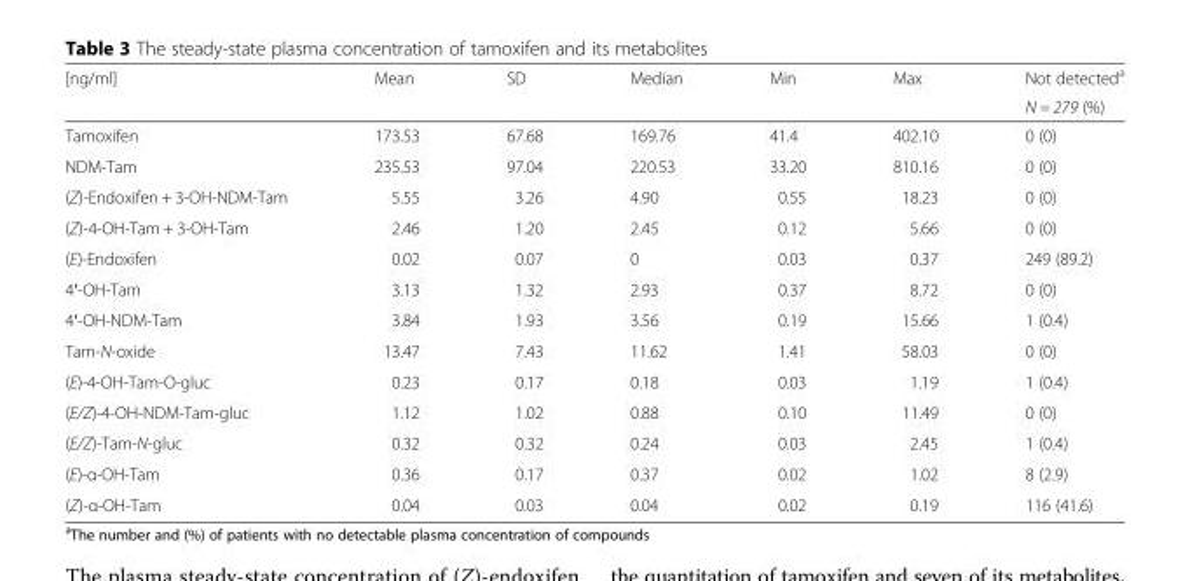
<table><thead><tr><td rowspan="2">[ng/ml]</td><td rowspan="2">Mean</td><td rowspan="2">SD</td><td rowspan="2">Median</td><td rowspan="2">Min</td><td rowspan="2">Max</td><td rowspan="2">Not detected<sup>a</sup> N = 279 (%)</td></tr><tr></tr></thead><tbody><tr><td>Tamoxifen</td><td>173.53</td><td>67.68</td><td>169.76</td><td>41.4</td><td>402.10</td><td>0 (0)</td></tr><tr><td>NDM-Tam</td><td>235.53</td><td>97.04</td><td>220.53</td><td>33.20</td><td>810.16</td><td>0 (0)</td></tr><tr><td>(Z)-Endoxifen + 3-OH-NDM-Tam</td><td>5.55</td><td>3.26</td><td>4.90</td><td>0.55</td><td>18.23</td><td>0 (0)</td></tr><tr><td>(Z)-4-OH-Tam + 3-OH-Tam</td><td>2.46</td><td>1.20</td><td>2.45</td><td>0.12</td><td>5.66</td><td>0 (0)</td></tr><tr><td>(E)-Endoxifen</td><td>0.02</td><td>0.07</td><td>0</td><td>0.03</td><td>0.37</td><td>249 (89.2)</td></tr><tr><td>4′-OH-Tam</td><td>3.13</td><td>1.32</td><td>2.93</td><td>0.37</td><td>8.72</td><td>0 (0)</td></tr><tr><td>4′-OH-NDM-Tam</td><td>3.84</td><td>1.93</td><td>3.56</td><td>0.19</td><td>15.66</td><td>1 (0.4)</td></tr><tr><td>Tam-N-oxide</td><td>13.47</td><td>7.43</td><td>11.62</td><td>1.41</td><td>58.03</td><td>0 (0)</td></tr><tr><td>(E)-4-OH-Tam-O-gluc</td><td>0.23</td><td>0.17</td><td>0.18</td><td>0.03</td><td>1.19</td><td>1 (0.4)</td></tr><tr><td>(E/Z)-4-OH-NDM-Tam-gluc</td><td>1.12</td><td>1.02</td><td>0.88</td><td>0.10</td><td>11.49</td><td>0 (0)</td></tr><tr><td>(E/Z)-Tam-N-gluc</td><td>0.32</td><td>0.32</td><td>0.24</td><td>0.03</td><td>2.45</td><td>1 (0.4)</td></tr><tr><td>(E)-α-OH-Tam</td><td>0.36</td><td>0.17</td><td>0.37</td><td>0.02</td><td>1.02</td><td>8 (2.9)</td></tr><tr><td>(Z)-α-OH-Tam</td><td>0.04</td><td>0.03</td><td>0.04</td><td>0.02</td><td>0.19</td><td>116 (41.6)</td></tr></tbody></table>